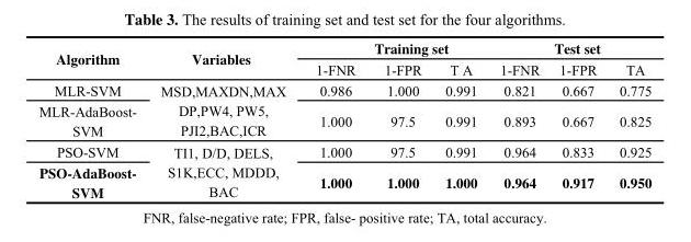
<table><thead><tr><td rowspan="2">Algorithm</td><td rowspan="2">Variables</td><td colspan="3">Training set</td><td colspan="3">Test set</td></tr><tr><td>1-FNR</td><td>1-FPR</td><td>T A</td><td>1-FNR</td><td>1-FPR</td><td>TA</td></tr></thead><tbody><tr><td>MLR-SVM</td><td rowspan="2">MSD,MAXDN,MAX DP,PW4, PW5, PJI2,BAC,ICR</td><td>0.986</td><td>1.000</td><td>0.991</td><td>0.821</td><td>0.667</td><td>0.775</td></tr><tr><td>MLR-AdaBoost- SVM</td><td>1.000</td><td>97.5</td><td>0.991</td><td>0.893</td><td>0.667</td><td>0.825</td></tr><tr><td>PSO-SVM</td><td rowspan="2">TI1, D/D, DELS, S1K,ECC, MDDD, BAC</td><td>1.000</td><td>97.5</td><td>0.991</td><td>0.964</td><td>0.833</td><td>0.925</td></tr><tr><td>PSO-AdaBoost- SVM</td><td>1.000</td><td>1.000</td><td>1.000</td><td>0.964</td><td>0.917</td><td>0.950</td></tr></tbody></table>